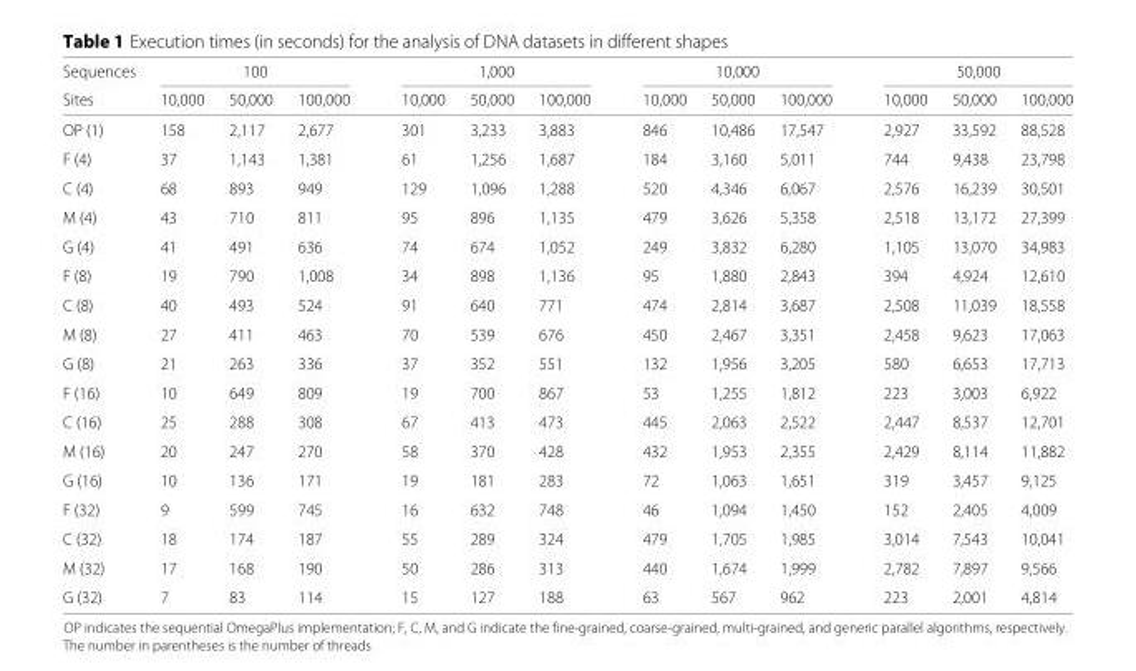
<table><thead><tr><td rowspan="2">Sequences Sites</td><td colspan="3">100</td><td colspan="3">1,000</td><td colspan="3">10,000</td><td colspan="3">50,000</td></tr><tr><td>10,000</td><td>50,000</td><td>100,000</td><td>10,000</td><td>50,000</td><td>100,000</td><td>10,000</td><td>50,000</td><td>100,000</td><td>10,000</td><td>50,000</td><td>100,000</td></tr></thead><tbody><tr><td>OP (1)</td><td>158</td><td>2,117</td><td>2,677</td><td>301</td><td>3,233</td><td>3,883</td><td>846</td><td>10,486</td><td>17,547</td><td>2,927</td><td>33,592</td><td>88,528</td></tr><tr><td>F (4)</td><td>37</td><td>1,143</td><td>1,381</td><td>61</td><td>1,256</td><td>1,687</td><td>184</td><td>3,160</td><td>5,011</td><td>744</td><td>9,438</td><td>23,798</td></tr><tr><td>C (4)</td><td>68</td><td>893</td><td>949</td><td>129</td><td>1,096</td><td>1,288</td><td>520</td><td>4,346</td><td>6,067</td><td>2,576</td><td>16,239</td><td>30,501</td></tr><tr><td>M (4)</td><td>43</td><td>710</td><td>811</td><td>95</td><td>896</td><td>1,135</td><td>479</td><td>3,626</td><td>5,358</td><td>2,518</td><td>13,172</td><td>27,399</td></tr><tr><td>G (4)</td><td>41</td><td>491</td><td>636</td><td>74</td><td>674</td><td>1,052</td><td>249</td><td>3,832</td><td>6,280</td><td>1,105</td><td>13,070</td><td>34,983</td></tr><tr><td>F (8)</td><td>19</td><td>790</td><td>1,008</td><td>34</td><td>898</td><td>1,136</td><td>95</td><td>1,880</td><td>2,843</td><td>394</td><td>4,924</td><td>12,610</td></tr><tr><td>C (8)</td><td>40</td><td>493</td><td>524</td><td>91</td><td>640</td><td>771</td><td>474</td><td>2,814</td><td>3,687</td><td>2,508</td><td>11,039</td><td>18,558</td></tr><tr><td>M (8)</td><td>27</td><td>411</td><td>463</td><td>70</td><td>539</td><td>676</td><td>450</td><td>2,467</td><td>3,351</td><td>2,458</td><td>9,623</td><td>17,063</td></tr><tr><td>G (8)</td><td>21</td><td>263</td><td>336</td><td>37</td><td>352</td><td>551</td><td>132</td><td>1,956</td><td>3,205</td><td>580</td><td>6,653</td><td>17,713</td></tr><tr><td>F (16)</td><td>10</td><td>649</td><td>809</td><td>19</td><td>700</td><td>867</td><td>53</td><td>1,255</td><td>1,812</td><td>223</td><td>3,003</td><td>6,922</td></tr><tr><td>C (16)</td><td>25</td><td>288</td><td>308</td><td>67</td><td>413</td><td>473</td><td>445</td><td>2,063</td><td>2,522</td><td>2,447</td><td>8,537</td><td>12,701</td></tr><tr><td>M (16)</td><td>20</td><td>247</td><td>270</td><td>58</td><td>370</td><td>428</td><td>432</td><td>1,953</td><td>2,355</td><td>2,429</td><td>8,114</td><td>11,882</td></tr><tr><td>G (16)</td><td>10</td><td>136</td><td>171</td><td>19</td><td>181</td><td>283</td><td>72</td><td>1,063</td><td>1,651</td><td>319</td><td>3,457</td><td>9,125</td></tr><tr><td>F (32)</td><td>9</td><td>599</td><td>745</td><td>16</td><td>632</td><td>748</td><td>46</td><td>1,094</td><td>1,450</td><td>152</td><td>2,405</td><td>4,009</td></tr><tr><td>C (32)</td><td>18</td><td>174</td><td>187</td><td>55</td><td>289</td><td>324</td><td>479</td><td>1,705</td><td>1,985</td><td>3,014</td><td>7,543</td><td>10,041</td></tr><tr><td>M (32)</td><td>17</td><td>168</td><td>190</td><td>50</td><td>286</td><td>313</td><td>440</td><td>1,674</td><td>1,999</td><td>2,782</td><td>7,897</td><td>9,566</td></tr><tr><td>G (32)</td><td>7</td><td>83</td><td>114</td><td>15</td><td>127</td><td>188</td><td>63</td><td>567</td><td>962</td><td>223</td><td>2,001</td><td>4,814</td></tr></tbody></table>